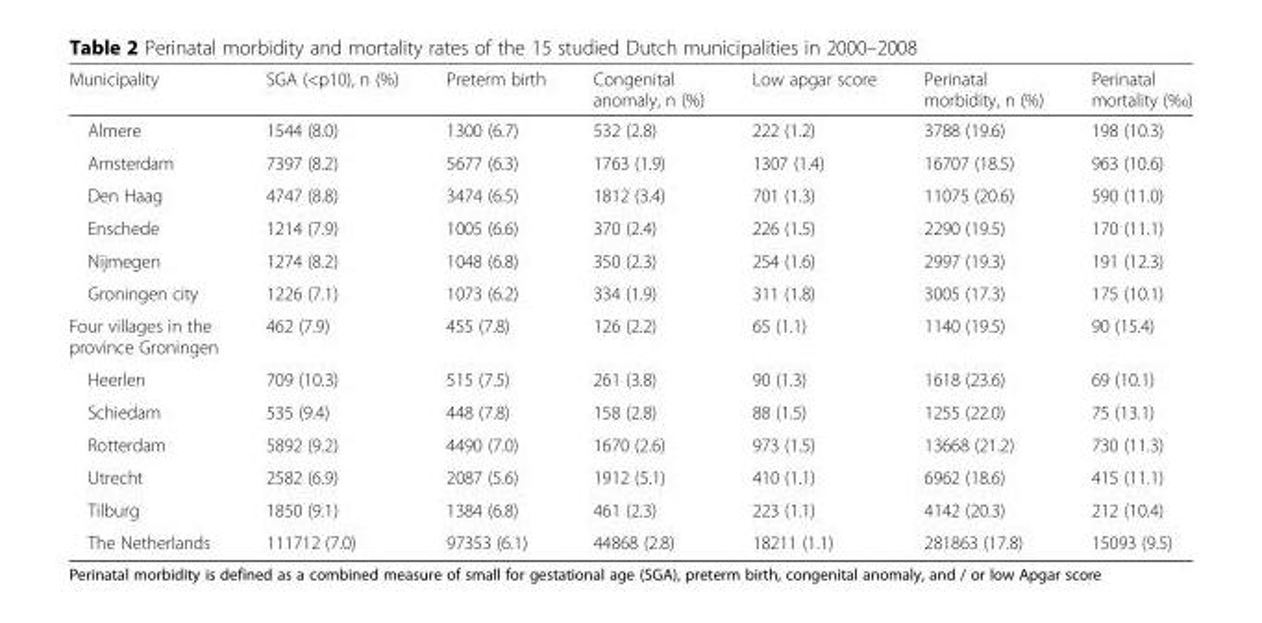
<table><thead><tr><td>Municipality</td><td>SGA (&lt;p10), n (%)</td><td>Preterm birth</td><td>Congenital anomaly, n (%)</td><td>Low apgar score</td><td>Perinatal morbidity, n (%)</td><td>Perinatal mortality (‰)</td></tr></thead><tbody><tr><td>Almere</td><td>1544 (8.0)</td><td>1300 (6.7)</td><td>532 (2.8)</td><td>222 (1.2)</td><td>3788 (19.6)</td><td>198 (10.3)</td></tr><tr><td>Amsterdam</td><td>7397 (8.2)</td><td>5677 (6.3)</td><td>1763 (1.9)</td><td>1307 (1.4)</td><td>16707 (18.5)</td><td>963 (10.6)</td></tr><tr><td>Den Haag</td><td>4747 (8.8)</td><td>3474 (6.5)</td><td>1812 (3.4)</td><td>701 (1.3)</td><td>11075 (20.6)</td><td>590 (11.0)</td></tr><tr><td>Enschede</td><td>1214 (7.9)</td><td>1005 (6.6)</td><td>370 (2.4)</td><td>226 (1.5)</td><td>2290 (19.5)</td><td>170 (11.1)</td></tr><tr><td>Nijmegen</td><td>1274 (8.2)</td><td>1048 (6.8)</td><td>350 (2.3)</td><td>254 (1.6)</td><td>2997 (19.3)</td><td>191 (12.3)</td></tr><tr><td>Groningen city</td><td>1226 (7.1)</td><td>1073 (6.2)</td><td>334 (1.9)</td><td>311 (1.8)</td><td>3005 (17.3)</td><td>175 (10.1)</td></tr><tr><td>Four villages in the province Groningen</td><td>462 (7.9)</td><td>455 (7.8)</td><td>126 (2.2)</td><td>65 (1.1)</td><td>1140 (19.5)</td><td>90 (15.4)</td></tr><tr><td>Heerlen</td><td>709 (10.3)</td><td>515 (7.5)</td><td>261 (3.8)</td><td>90 (1.3)</td><td>1618 (23.6)</td><td>69 (10.1)</td></tr><tr><td>Schiedam</td><td>535 (9.4)</td><td>448 (7.8)</td><td>158 (2.8)</td><td>88 (1.5)</td><td>1255 (22.0)</td><td>75 (13.1)</td></tr><tr><td>Rotterdam</td><td>5892 (9.2)</td><td>4490 (7.0)</td><td>1670 (2.6)</td><td>973 (1.5)</td><td>13668 (21.2)</td><td>730 (11.3)</td></tr><tr><td>Utrecht</td><td>2582 (6.9)</td><td>2087 (5.6)</td><td>1912 (5.1)</td><td>410 (1.1)</td><td>6962 (18.6)</td><td>415 (11.1)</td></tr><tr><td>Tilburg</td><td>1850 (9.1)</td><td>1384 (6.8)</td><td>461 (2.3)</td><td>223 (1.1)</td><td>4142 (20.3)</td><td>212 (10.4)</td></tr><tr><td>The Netherlands</td><td>111712 (7.0)</td><td>97353 (6.1)</td><td>44868 (2.8)</td><td>18211 (1.1)</td><td>281863 (17.8)</td><td>15093 (9.5)</td></tr></tbody></table>